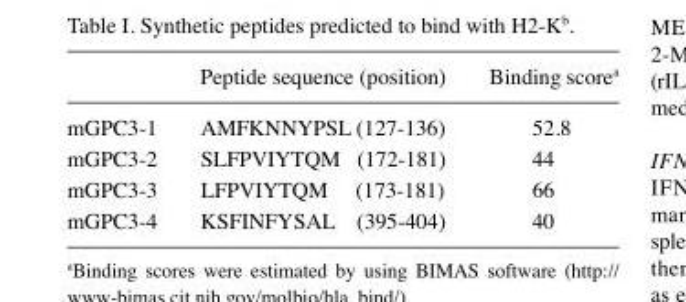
<table><thead><tr><td></td><td>Peptide sequence (position)</td><td>Binding score<sup>a</sup></td></tr></thead><tbody><tr><td>mGPC3-1</td><td>AMFKNNYPSL (127-136)</td><td>52.8</td></tr><tr><td>mGPC3-2</td><td>SLFPVIYTQM (172-181)</td><td>44</td></tr><tr><td>mGPC3-3</td><td>LFPVIYTQM (173-181)</td><td>66</td></tr><tr><td>mGPC3-4</td><td>KSFINFYSAL (395-404)</td><td>40</td></tr></tbody></table>